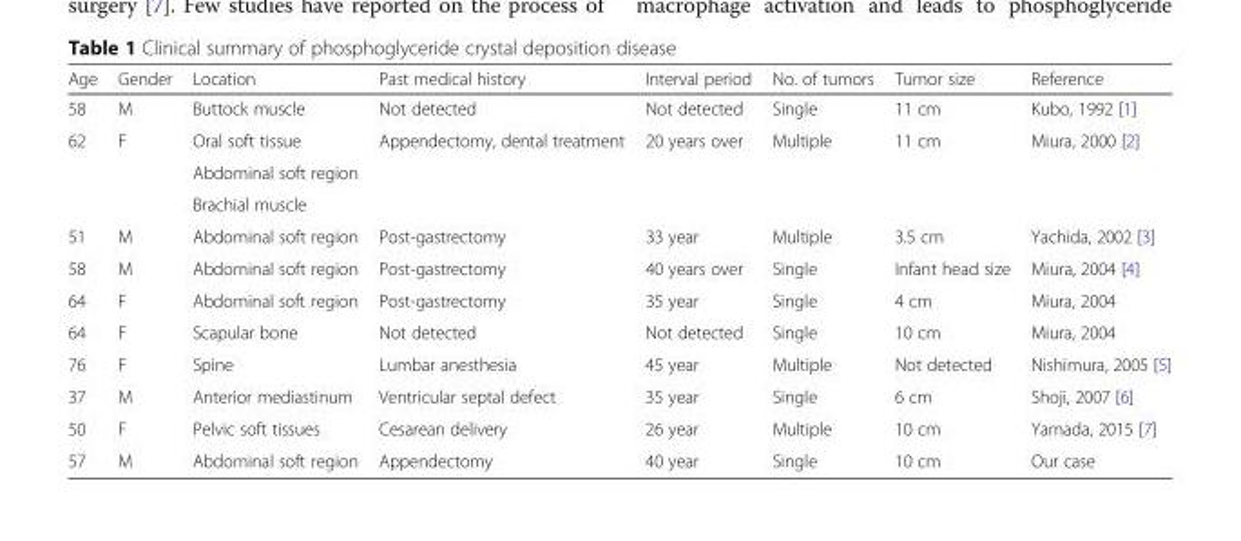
<table><thead><tr><td>Age</td><td>Gender</td><td>Location</td><td>Past medical history</td><td>Interval period</td><td>No. of tumors</td><td>Tumor size</td><td>Reference</td></tr></thead><tbody><tr><td>58</td><td>M</td><td>Buttock muscle</td><td>Not detected</td><td>Not detected</td><td>Single</td><td>11 cm</td><td>Kubo, 1992 [1]</td></tr><tr><td rowspan="3">62</td><td rowspan="3">F</td><td>Oral soft tissue</td><td rowspan="3">Appendectomy, dental treatment</td><td rowspan="3">20 years over</td><td rowspan="3">Multiple</td><td rowspan="3">11 cm</td><td rowspan="3">Miura, 2000 [2]</td></tr><tr><td>Abdominal soft region</td></tr><tr><td>Brachial muscle</td></tr><tr><td>51</td><td>M</td><td>Abdominal soft region</td><td>Post-gastrectomy</td><td>33 year</td><td>Multiple</td><td>3.5 cm</td><td>Yachida, 2002 [3]</td></tr><tr><td>58</td><td>M</td><td>Abdominal soft region</td><td>Post-gastrectomy</td><td>40 years over</td><td>Single</td><td>Infant head size</td><td>Miura, 2004 [4]</td></tr><tr><td>64</td><td>F</td><td>Abdominal soft region</td><td>Post-gastrectomy</td><td>35 year</td><td>Single</td><td>4 cm</td><td>Miura, 2004</td></tr><tr><td>64</td><td>F</td><td>Scapular bone</td><td>Not detected</td><td>Not detected</td><td>Single</td><td>10 cm</td><td>Miura, 2004</td></tr><tr><td>76</td><td>F</td><td>Spine</td><td>Lumbar anesthesia</td><td>45 year</td><td>Multiple</td><td>Not detected</td><td>Nishimura, 2005 [5]</td></tr><tr><td>37</td><td>M</td><td>Anterior mediastinum</td><td>Ventricular septal defect</td><td>35 year</td><td>Single</td><td>6 cm</td><td>Shoji, 2007 [6]</td></tr><tr><td>50</td><td>F</td><td>Pelvic soft tissues</td><td>Cesarean delivery</td><td>26 year</td><td>Multiple</td><td>10 cm</td><td>Yamada, 2015 [7]</td></tr><tr><td>57</td><td>M</td><td>Abdominal soft region</td><td>Appendectomy</td><td>40 year</td><td>Single</td><td>10 cm</td><td>Our case</td></tr></tbody></table>